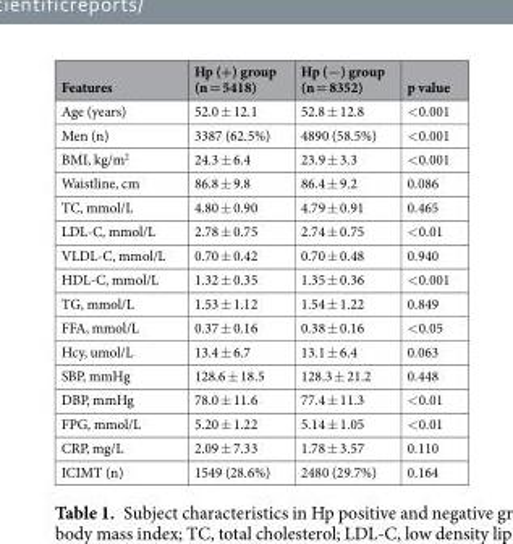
<table><thead><tr><td>Features</td><td>Hp (+) group (n = 5418)</td><td>Hp (−) group (n = 8352)</td><td>p value</td></tr></thead><tbody><tr><td>Age (years)</td><td>52.0 ± 12.1</td><td>52.8 ± 12.8</td><td>&lt;0.001</td></tr><tr><td>Men (n)</td><td>3387 (62.5%)</td><td>4890 (58.5%)</td><td>&lt;0.001</td></tr><tr><td>BMI, kg/m<sup>2</sup></td><td>24.3 ± 6.4</td><td>23.9 ± 3.3</td><td>&lt;0.001</td></tr><tr><td>Waistline, cm</td><td>86.8 ± 9.8</td><td>86.4 ± 9.2</td><td>0.086</td></tr><tr><td>TC, mmol/L</td><td>4.80 ± 0.90</td><td>4.79 ± 0.91</td><td>0.465</td></tr><tr><td>LDL-C, mmol/L</td><td>2.78 ± 0.75</td><td>2.74 ± 0.75</td><td>&lt;0.01</td></tr><tr><td>VLDL-C, mmol/L</td><td>0.70 ± 0.42</td><td>0.70 ± 0.48</td><td>0.940</td></tr><tr><td>HDL-C, mmol/L</td><td>1.32 ± 0.35</td><td>1.35 ± 0.36</td><td>&lt;0.001</td></tr><tr><td>TG, mmol/L</td><td>1.53 ± 1.12</td><td>1.54 ± 1.22</td><td>0.849</td></tr><tr><td>FFA, mmol/L</td><td>0.37 ± 0.16</td><td>0.38 ± 0.16</td><td>&lt;0.05</td></tr><tr><td>Hcy, umol/L</td><td>13.4 ± 6.7</td><td>13.1 ± 6.4</td><td>0.063</td></tr><tr><td>SBP, mmHg</td><td>128.6 ± 18.5</td><td>128.3 ± 21.2</td><td>0.448</td></tr><tr><td>DBP, mmHg</td><td>78.0 ± 11.6</td><td>77.4 ± 11.3</td><td>&lt;0.01</td></tr><tr><td>FPG, mmol/L</td><td>5.20 ± 1.22</td><td>5.14 ± 1.05</td><td>&lt;0.01</td></tr><tr><td>CRP, mg/L</td><td>2.09 ± 7.33</td><td>1.78 ± 3.57</td><td>0.110</td></tr><tr><td>ICIMT (n)</td><td>1549 (28.6%)</td><td>2480 (29.7%)</td><td>0.164</td></tr></tbody></table>